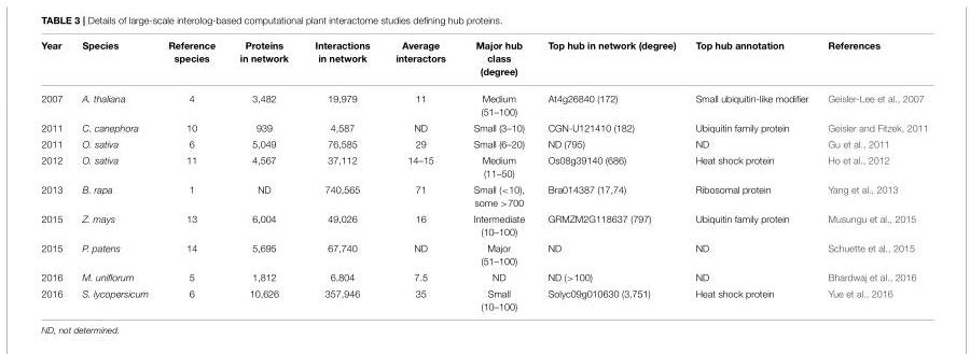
<table><thead><tr><td>Year</td><td>Species</td><td>Reference species</td><td>Proteins in network</td><td>Interactions in network</td><td>Average interactors</td><td>Major hub class (degree)</td><td>Top hub in network (degree)</td><td>Top hub annotation</td><td>References</td></tr></thead><tbody><tr><td>2007</td><td>A. thaliana</td><td>4</td><td>3,482</td><td>19,979</td><td>11</td><td>Medium (51–100)</td><td>At4g26840 (172)</td><td>Small ubiquitin-like modifier</td><td>Geisler-Lee et al., 2007</td></tr><tr><td>2011</td><td>C. canephora</td><td>10</td><td>939</td><td>4,587</td><td>ND</td><td>Small (3–10)</td><td>CGN-U121410 (182)</td><td>Ubiquitin family protein</td><td>Geisler and Fitzek, 2011</td></tr><tr><td>2011</td><td>O. sativa</td><td>6</td><td>5,049</td><td>76,585</td><td>29</td><td>Small (6–20)</td><td>ND (795)</td><td>ND</td><td>Gu et al., 2011</td></tr><tr><td>2012</td><td>O. sativa</td><td>11</td><td>4,567</td><td>37,112</td><td>14–15</td><td>Medium (11–50)</td><td>Os08g39140 (686)</td><td>Heat shock protein</td><td>Ho et al., 2012</td></tr><tr><td>2013</td><td>B. rapa</td><td>1</td><td>ND</td><td>740,565</td><td>71</td><td>Small (&lt;10), some &gt;700</td><td>Bra014387 (17,74)</td><td>Ribosomal protein</td><td>Yang et al., 2013</td></tr><tr><td>2015</td><td>Z. mays</td><td>13</td><td>6,004</td><td>49,026</td><td>16</td><td>Intermediate (10–100)</td><td>GRMZM2G118637 (797)</td><td>Ubiquitin family protein</td><td>Musungu et al., 2015</td></tr><tr><td>2015</td><td>P. patens</td><td>14</td><td>5,695</td><td>67,740</td><td>ND</td><td>Major (51–100)</td><td>ND</td><td>ND</td><td>Schuette et al., 2015</td></tr><tr><td>2016</td><td>M. uniflorum</td><td>5</td><td>1,812</td><td>6,804</td><td>7.5</td><td>ND</td><td>ND (&gt;100)</td><td>ND</td><td>Bhardwaj et al., 2016</td></tr><tr><td>2016</td><td>S. lycopersicum</td><td>6</td><td>10,626</td><td>357,946</td><td>35</td><td>Small (10–100)</td><td>Solyc09g010630 (3,751)</td><td>Heat shock protein</td><td>Yue et al., 2016</td></tr></tbody></table>